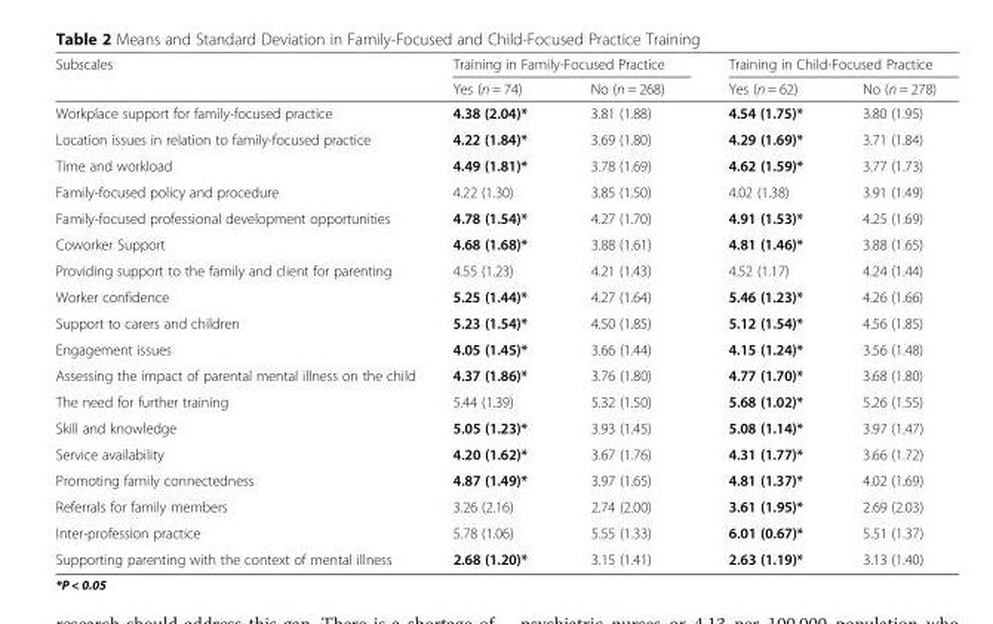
<table><thead><tr><td rowspan="2">Subscales</td><td colspan="2">Training in Family-Focused Practice</td><td colspan="2">Training in Child-Focused Practice</td></tr><tr><td>Yes (n = 74)</td><td>No (n = 268)</td><td>Yes (n = 62)</td><td>No (n = 278)</td></tr></thead><tbody><tr><td>Workplace support for family-focused practice</td><td>4.38 (2.04)*</td><td>3.81 (1.88)</td><td>4.54 (1.75)*</td><td>3.80 (1.95)</td></tr><tr><td>Location issues in relation to family-focused practice</td><td>4.22 (1.84)*</td><td>3.69 (1.80)</td><td>4.29 (1.69)*</td><td>3.71 (1.84)</td></tr><tr><td>Time and workload</td><td>4.49 (1.81)*</td><td>3.78 (1.69)</td><td>4.62 (1.59)*</td><td>3.77 (1.73)</td></tr><tr><td>Family-focused policy and procedure</td><td>4.22 (1.30)</td><td>3.85 (1.50)</td><td>4.02 (1.38)</td><td>3.91 (1.49)</td></tr><tr><td>Family-focused professional development opportunities</td><td>4.78 (1.54)*</td><td>4.27 (1.70)</td><td>4.91 (1.53)*</td><td>4.25 (1.69)</td></tr><tr><td>Coworker Support</td><td>4.68 (1.68)*</td><td>3.88 (1.61)</td><td>4.81 (1.46)*</td><td>3.88 (1.65)</td></tr><tr><td>Providing support to the family and client for parenting</td><td>4.55 (1.23)</td><td>4.21 (1.43)</td><td>4.52 (1.17)</td><td>4.24 (1.44)</td></tr><tr><td>Worker confidence</td><td>5.25 (1.44)*</td><td>4.27 (1.64)</td><td>5.46 (1.23)*</td><td>4.26 (1.66)</td></tr><tr><td>Support to carers and children</td><td>5.23 (1.54)*</td><td>4.50 (1.85)</td><td>5.12 (1.54)*</td><td>4.56 (1.85)</td></tr><tr><td>Engagement issues</td><td>4.05 (1.45)*</td><td>3.66 (1.44)</td><td>4.15 (1.24)*</td><td>3.56 (1.48)</td></tr><tr><td>Assessing the impact of parental mental illness on the child</td><td>4.37 (1.86)*</td><td>3.76 (1.80)</td><td>4.77 (1.70)*</td><td>3.68 (1.80)</td></tr><tr><td>The need for further training</td><td>5.44 (1.39)</td><td>5.32 (1.50)</td><td>5.68 (1.02)*</td><td>5.26 (1.55)</td></tr><tr><td>Skill and knowledge</td><td>5.05 (1.23)*</td><td>3.93 (1.45)</td><td>5.08 (1.14)*</td><td>3.97 (1.47)</td></tr><tr><td>Service availability</td><td>4.20 (1.62)*</td><td>3.67 (1.76)</td><td>4.31 (1.77)*</td><td>3.66 (1.72)</td></tr><tr><td>Promoting family connectedness</td><td>4.87 (1.49)*</td><td>3.97 (1.65)</td><td>4.81 (1.37)*</td><td>4.02 (1.69)</td></tr><tr><td>Referrals for family members</td><td>3.26 (2.16)</td><td>2.74 (2.00)</td><td>3.61 (1.95)*</td><td>2.69 (2.03)</td></tr><tr><td>Inter-profession practice</td><td>5.78 (1.06)</td><td>5.55 (1.33)</td><td>6.01 (0.67)*</td><td>5.51 (1.37)</td></tr><tr><td>Supporting parenting with the context of mental illness</td><td>2.68 (1.20)*</td><td>3.15 (1.41)</td><td>2.63 (1.19)*</td><td>3.13 (1.40)</td></tr></tbody></table>